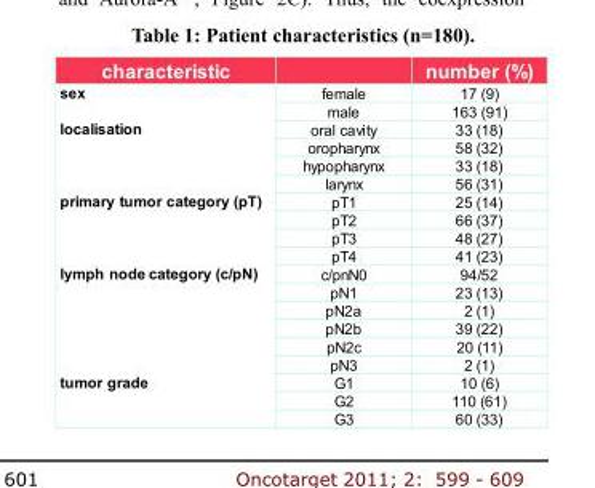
<table><thead><tr><td>characteristic</td><td></td><td>number (%)</td></tr></thead><tbody><tr><td rowspan="2">sex</td><td>female</td><td>17 (9)</td></tr><tr><td>male</td><td>163 (91)</td></tr><tr><td rowspan="4">localisation</td><td>oral cavity</td><td>33 (18)</td></tr><tr><td>oropharynx</td><td>58 (32)</td></tr><tr><td>hypopharynx</td><td>33 (18)</td></tr><tr><td>larynx</td><td>56 (31)</td></tr><tr><td rowspan="4">primary tumor category (pt)</td><td>pT1</td><td>25 (14)</td></tr><tr><td>pT2</td><td>66 (37)</td></tr><tr><td>pT3</td><td>48 (27)</td></tr><tr><td>pT4</td><td>41 (23)</td></tr><tr><td rowspan="6">lymph node category (c/pn)</td><td>c/pnN0</td><td>94/52</td></tr><tr><td>pN1</td><td>23 (13)</td></tr><tr><td>pN2a</td><td>2 (1)</td></tr><tr><td>pN2b</td><td>39 (22)</td></tr><tr><td>pN2c</td><td>20 (11)</td></tr><tr><td>pN3</td><td>2 (1)</td></tr><tr><td rowspan="3">tumor grade</td><td>G1</td><td>10 (6)</td></tr><tr><td>G2</td><td>110 (61)</td></tr><tr><td>G3</td><td>60 (33)</td></tr></tbody></table>